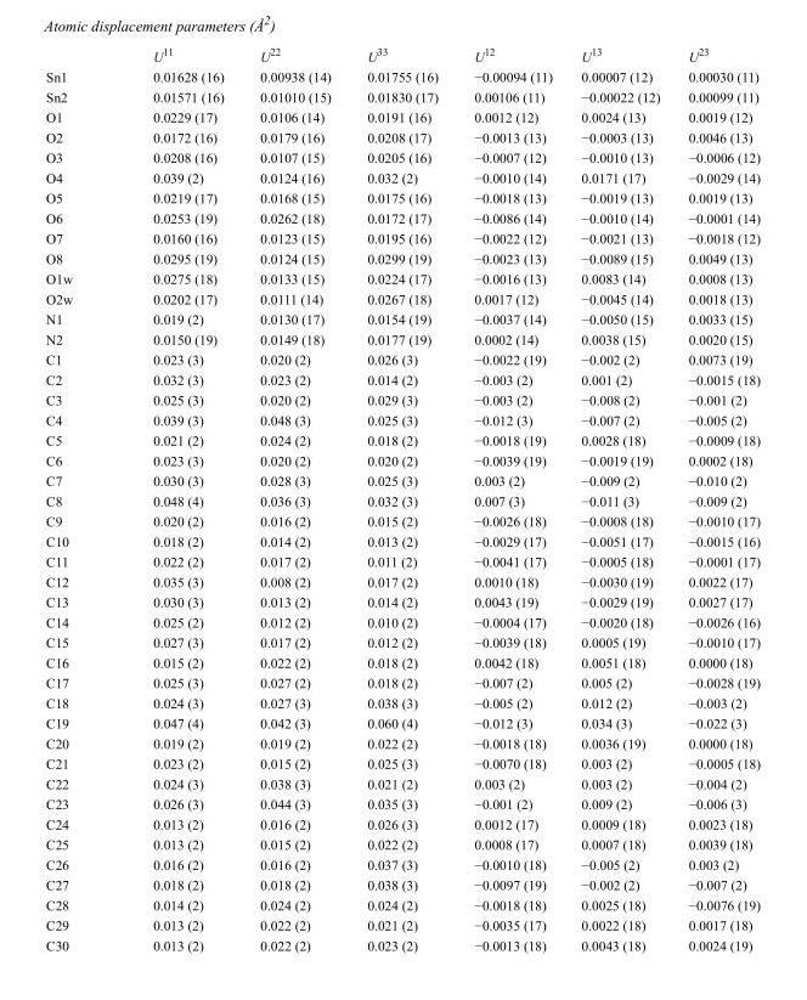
<table><thead><tr><td></td><td>U<sup>11</sup></td><td>U<sup>22</sup></td><td>U<sup>33</sup></td><td>U<sup>12</sup></td><td>U<sup>13</sup></td><td>U<sup>23</sup></td></tr></thead><tbody><tr><td>Sn1</td><td>0.01628 (16)</td><td>0.00938 (14)</td><td>0.01755 (16)</td><td>−0.00094 (11)</td><td>0.00007 (12)</td><td>0.00030 (11)</td></tr><tr><td>Sn2</td><td>0.01571 (16)</td><td>0.01010 (15)</td><td>0.01830 (17)</td><td>0.00106 (11)</td><td>−0.00022 (12)</td><td>0.00099 (11)</td></tr><tr><td>O1</td><td>0.0229 (17)</td><td>0.0106 (14)</td><td>0.0191 (16)</td><td>0.0012 (12)</td><td>0.0024 (13)</td><td>0.0019 (12)</td></tr><tr><td>O2</td><td>0.0172 (16)</td><td>0.0179 (16)</td><td>0.0208 (17)</td><td>−0.0013 (13)</td><td>−0.0003 (13)</td><td>0.0046 (13)</td></tr><tr><td>O3</td><td>0.0208 (16)</td><td>0.0107 (15)</td><td>0.0205 (16)</td><td>−0.0007 (12)</td><td>−0.0010 (13)</td><td>−0.0006 (12)</td></tr><tr><td>O4</td><td>0.039 (2)</td><td>0.0124 (16)</td><td>0.032 (2)</td><td>−0.0010 (14)</td><td>0.0171 (17)</td><td>−0.0029 (14)</td></tr><tr><td>O5</td><td>0.0219 (17)</td><td>0.0168 (15)</td><td>0.0175 (16)</td><td>−0.0018 (13)</td><td>−0.0019 (13)</td><td>0.0019 (13)</td></tr><tr><td>O6</td><td>0.0253 (19)</td><td>0.0262 (18)</td><td>0.0172 (17)</td><td>−0.0086 (14)</td><td>−0.0010 (14)</td><td>−0.0001 (14)</td></tr><tr><td>O7</td><td>0.0160 (16)</td><td>0.0123 (15)</td><td>0.0195 (16)</td><td>−0.0022 (12)</td><td>−0.0021 (13)</td><td>−0.0018 (12)</td></tr><tr><td>O8</td><td>0.0295 (19)</td><td>0.0124 (15)</td><td>0.0299 (19)</td><td>−0.0023 (13)</td><td>−0.0089 (15)</td><td>0.0049 (13)</td></tr><tr><td>O1w</td><td>0.0275 (18)</td><td>0.0133 (15)</td><td>0.0224 (17)</td><td>−0.0016 (13)</td><td>0.0083 (14)</td><td>0.0008 (13)</td></tr><tr><td>O2w</td><td>0.0202 (17)</td><td>0.0111 (14)</td><td>0.0267 (18)</td><td>0.0017 (12)</td><td>−0.0045 (14)</td><td>0.0018 (13)</td></tr><tr><td>N1</td><td>0.019 (2)</td><td>0.0130 (17)</td><td>0.0154 (19)</td><td>−0.0037 (14)</td><td>−0.0050 (15)</td><td>0.0033 (15)</td></tr><tr><td>N2</td><td>0.0150 (19)</td><td>0.0149 (18)</td><td>0.0177 (19)</td><td>0.0002 (14)</td><td>0.0038 (15)</td><td>0.0020 (15)</td></tr><tr><td>C1</td><td>0.023 (3)</td><td>0.020 (2)</td><td>0.026 (3)</td><td>−0.0022 (19)</td><td>−0.002 (2)</td><td>0.0073 (19)</td></tr><tr><td>C2</td><td>0.032 (3)</td><td>0.023 (2)</td><td>0.014 (2)</td><td>−0.003 (2)</td><td>0.001 (2)</td><td>−0.0015 (18)</td></tr><tr><td>C3</td><td>0.025 (3)</td><td>0.020 (2)</td><td>0.029 (3)</td><td>−0.003 (2)</td><td>−0.008 (2)</td><td>−0.001 (2)</td></tr><tr><td>C4</td><td>0.039 (3)</td><td>0.048 (3)</td><td>0.025 (3)</td><td>−0.012 (3)</td><td>−0.007 (2)</td><td>−0.005 (2)</td></tr><tr><td>C5</td><td>0.021 (2)</td><td>0.024 (2)</td><td>0.018 (2)</td><td>−0.0018 (19)</td><td>0.0028 (18)</td><td>−0.0009 (18)</td></tr><tr><td>C6</td><td>0.023 (3)</td><td>0.020 (2)</td><td>0.020 (2)</td><td>−0.0039 (19)</td><td>−0.0019 (19)</td><td>0.0002 (18)</td></tr><tr><td>C7</td><td>0.030 (3)</td><td>0.028 (3)</td><td>0.025 (3)</td><td>0.003 (2)</td><td>−0.009 (2)</td><td>−0.010 (2)</td></tr><tr><td>C8</td><td>0.048 (4)</td><td>0.036 (3)</td><td>0.032 (3)</td><td>0.007 (3)</td><td>−0.011 (3)</td><td>−0.009 (2)</td></tr><tr><td>C9</td><td>0.020 (2)</td><td>0.016 (2)</td><td>0.015 (2)</td><td>−0.0026 (18)</td><td>−0.0008 (18)</td><td>−0.0010 (17)</td></tr><tr><td>C10</td><td>0.018 (2)</td><td>0.014 (2)</td><td>0.013 (2)</td><td>−0.0029 (17)</td><td>−0.0051 (17)</td><td>−0.0015 (16)</td></tr><tr><td>C11</td><td>0.022 (2)</td><td>0.017 (2)</td><td>0.011 (2)</td><td>−0.0041 (17)</td><td>−0.0005 (18)</td><td>−0.0001 (17)</td></tr><tr><td>C12</td><td>0.035 (3)</td><td>0.008 (2)</td><td>0.017 (2)</td><td>0.0010 (18)</td><td>−0.0030 (19)</td><td>0.0022 (17)</td></tr><tr><td>C13</td><td>0.030 (3)</td><td>0.013 (2)</td><td>0.014 (2)</td><td>0.0043 (19)</td><td>−0.0029 (19)</td><td>0.0027 (17)</td></tr><tr><td>C14</td><td>0.025 (2)</td><td>0.012 (2)</td><td>0.010 (2)</td><td>−0.0004 (17)</td><td>−0.0020 (18)</td><td>−0.0026 (16)</td></tr><tr><td>C15</td><td>0.027 (3)</td><td>0.017 (2)</td><td>0.012 (2)</td><td>−0.0039 (18)</td><td>0.0005 (19)</td><td>−0.0010 (17)</td></tr><tr><td>C16</td><td>0.015 (2)</td><td>0.022 (2)</td><td>0.018 (2)</td><td>0.0042 (18)</td><td>0.0051 (18)</td><td>0.0000 (18)</td></tr><tr><td>C17</td><td>0.025 (3)</td><td>0.027 (2)</td><td>0.018 (2)</td><td>−0.007 (2)</td><td>0.005 (2)</td><td>−0.0028 (19)</td></tr><tr><td>C18</td><td>0.024 (3)</td><td>0.027 (3)</td><td>0.038 (3)</td><td>−0.005 (2)</td><td>0.012 (2)</td><td>−0.003 (2)</td></tr><tr><td>C19</td><td>0.047 (4)</td><td>0.042 (3)</td><td>0.060 (4)</td><td>−0.012 (3)</td><td>0.034 (3)</td><td>−0.022 (3)</td></tr><tr><td>C20</td><td>0.019 (2)</td><td>0.019 (2)</td><td>0.022 (2)</td><td>−0.0018 (18)</td><td>0.0036 (19)</td><td>0.0000 (18)</td></tr><tr><td>C21</td><td>0.023 (2)</td><td>0.015 (2)</td><td>0.025 (3)</td><td>−0.0070 (18)</td><td>0.003 (2)</td><td>−0.0005 (18)</td></tr><tr><td>C22</td><td>0.024 (3)</td><td>0.038 (3)</td><td>0.021 (2)</td><td>0.003 (2)</td><td>0.003 (2)</td><td>−0.004 (2)</td></tr><tr><td>C23</td><td>0.026 (3)</td><td>0.044 (3)</td><td>0.035 (3)</td><td>−0.001 (2)</td><td>0.009 (2)</td><td>−0.006 (3)</td></tr><tr><td>C24</td><td>0.013 (2)</td><td>0.016 (2)</td><td>0.026 (3)</td><td>0.0012 (17)</td><td>0.0009 (18)</td><td>0.0023 (18)</td></tr><tr><td>C25</td><td>0.013 (2)</td><td>0.015 (2)</td><td>0.022 (2)</td><td>0.0008 (17)</td><td>0.0007 (18)</td><td>0.0039 (18)</td></tr><tr><td>C26</td><td>0.016 (2)</td><td>0.016 (2)</td><td>0.037 (3)</td><td>−0.0010 (18)</td><td>−0.005 (2)</td><td>0.003 (2)</td></tr><tr><td>C27</td><td>0.018 (2)</td><td>0.018 (2)</td><td>0.038 (3)</td><td>−0.0097 (19)</td><td>−0.002 (2)</td><td>−0.007 (2)</td></tr><tr><td>C28</td><td>0.014 (2)</td><td>0.024 (2)</td><td>0.024 (2)</td><td>−0.0018 (18)</td><td>0.0025 (18)</td><td>−0.0076 (19)</td></tr><tr><td>C29</td><td>0.013 (2)</td><td>0.022 (2)</td><td>0.021 (2)</td><td>−0.0035 (17)</td><td>0.0022 (18)</td><td>0.0017 (18)</td></tr><tr><td>C30</td><td>0.013 (2)</td><td>0.022 (2)</td><td>0.023 (2)</td><td>−0.0013 (18)</td><td>0.0043 (18)</td><td>0.0024 (19)</td></tr></tbody></table>